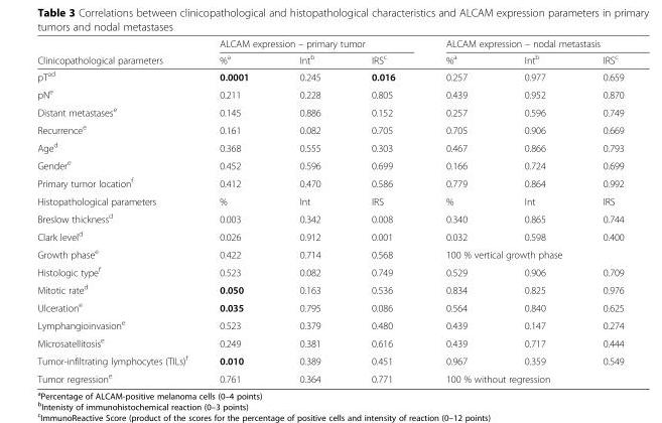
<table><thead><tr><td rowspan="2">Clinicopathological parameters</td><td colspan="3">ALCAM expression – primary tumor</td><td colspan="3">ALCAM expression – nodal metastasis</td></tr><tr><td>%<sup>a</sup></td><td>Int<sup>b</sup></td><td>IRS<sup>c</sup></td><td>%<sup>a</sup></td><td>Int<sup>b</sup></td><td>IRS<sup>c</sup></td></tr></thead><tbody><tr><td>pT<sup>ad</sup></td><td>0.0001</td><td>0.245</td><td>0.016</td><td>0.257</td><td>0.977</td><td>0.659</td></tr><tr><td>pN<sup>e</sup></td><td>0.211</td><td>0.228</td><td>0.805</td><td>0.439</td><td>0.952</td><td>0.870</td></tr><tr><td>Distant metastases<sup>e</sup></td><td>0.145</td><td>0.886</td><td>0.152</td><td>0.257</td><td>0.596</td><td>0.749</td></tr><tr><td>Recurrence<sup>e</sup></td><td>0.161</td><td>0.082</td><td>0.705</td><td>0.705</td><td>0.906</td><td>0.669</td></tr><tr><td>Age<sup>d</sup></td><td>0.368</td><td>0.555</td><td>0.303</td><td>0.467</td><td>0.866</td><td>0.793</td></tr><tr><td>Gender<sup>e</sup></td><td>0.452</td><td>0.596</td><td>0.699</td><td>0.166</td><td>0.724</td><td>0.699</td></tr><tr><td>Primary tumor location<sup>f</sup></td><td>0.412</td><td>0.470</td><td>0.586</td><td>0.779</td><td>0.864</td><td>0.992</td></tr><tr><td>Histopathological parameters</td><td>%</td><td>Int</td><td>IRS</td><td>%</td><td>Int</td><td>IRS</td></tr><tr><td>Breslow thickness<sup>d</sup></td><td>0.003</td><td>0.342</td><td>0.008</td><td>0.340</td><td>0.865</td><td>0.744</td></tr><tr><td>Clark level<sup>d</sup></td><td>0.026</td><td>0.912</td><td>0.001</td><td>0.032</td><td>0.598</td><td>0.400</td></tr><tr><td>Growth phase<sup>e</sup></td><td>0.422</td><td>0.714</td><td>0.568</td><td colspan="3">100 % vertical growth phase</td></tr><tr><td>Histologic type<sup>f</sup></td><td>0.523</td><td>0.082</td><td>0.749</td><td>0.529</td><td>0.906</td><td>0.709</td></tr><tr><td>Mitotic rate<sup>d</sup></td><td>0.050</td><td>0.163</td><td>0.536</td><td>0.834</td><td>0.825</td><td>0.976</td></tr><tr><td>Ulceration<sup>e</sup></td><td>0.035</td><td>0.795</td><td>0.086</td><td>0.564</td><td>0.840</td><td>0.625</td></tr><tr><td>Lymphangioinvasion<sup>e</sup></td><td>0.523</td><td>0.379</td><td>0.480</td><td>0.439</td><td>0.147</td><td>0.274</td></tr><tr><td>Microsatellitosis<sup>e</sup></td><td>0.249</td><td>0.381</td><td>0.616</td><td>0.439</td><td>0.717</td><td>0.444</td></tr><tr><td>Tumor-infiltrating lymphocytes (TILs)<sup>f</sup></td><td>0.010</td><td>0.389</td><td>0.451</td><td>0.967</td><td>0.359</td><td>0.549</td></tr><tr><td>Tumor regression<sup>e</sup></td><td>0.761</td><td>0.364</td><td>0.771</td><td colspan="3">100 % without regression</td></tr></tbody></table>